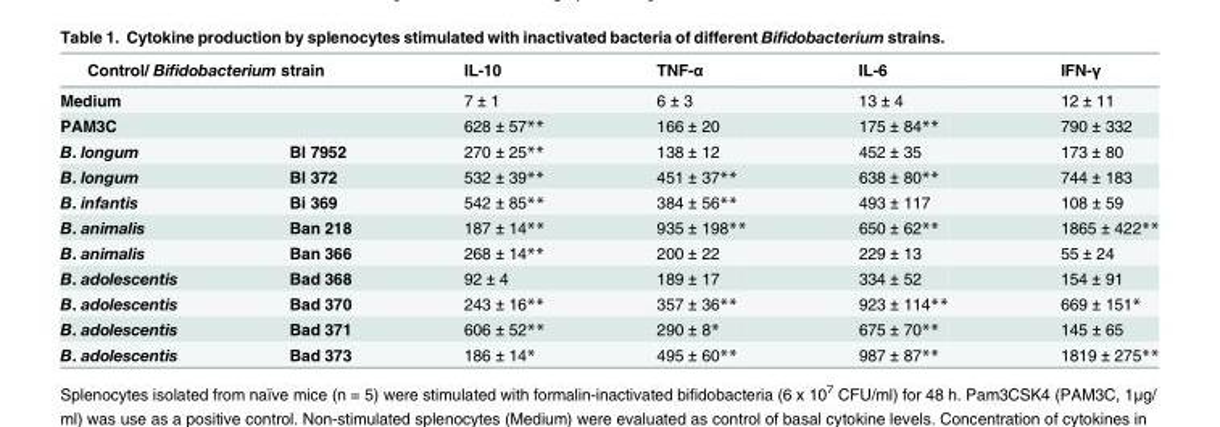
<table><thead><tr><td colspan="2">Control/ Bifidobacterium strain</td><td rowspan="2">IL-10 7 ± 1</td><td rowspan="2">TNF-α 6 ± 3</td><td rowspan="2">IL-6 13 ± 4</td><td rowspan="2">IFN-γ 12 ± 11</td></tr><tr><td>Medium</td><td></td></tr></thead><tbody><tr><td>PAM3C</td><td></td><td>628 ± 57**</td><td>166 ± 20</td><td>175 ± 84**</td><td>790 ± 332</td></tr><tr><td>B. longum</td><td>Bl 7952</td><td>270 ± 25**</td><td>138 ± 12</td><td>452 ± 35</td><td>173 ± 80</td></tr><tr><td>B. longum</td><td>Bl 372</td><td>532 ± 39**</td><td>451 ± 37**</td><td>638 ± 80**</td><td>744 ± 183</td></tr><tr><td>B. infantis</td><td>Bi 369</td><td>542 ± 85**</td><td>384 ± 56**</td><td>493 ± 117</td><td>108 ± 59</td></tr><tr><td>B. animalis</td><td>Ban 218</td><td>187 ± 14**</td><td>935 ± 198**</td><td>650 ± 62**</td><td>1865 ± 422**</td></tr><tr><td>B. animalis</td><td>Ban 366</td><td>268 ± 14**</td><td>200 ± 22</td><td>229 ± 13</td><td>55 ± 24</td></tr><tr><td>B. adolescentis</td><td>Bad 368</td><td>92 ± 4</td><td>189 ± 17</td><td>334 ± 52</td><td>154 ± 91</td></tr><tr><td>B. adolescentis</td><td>Bad 370</td><td>243 ± 16**</td><td>357 ± 36**</td><td>923 ± 114**</td><td>669 ± 151*</td></tr><tr><td>B. adolescentis</td><td>Bad 371</td><td>606 ± 52**</td><td>290 ± 8*</td><td>675 ± 70**</td><td>145 ± 65</td></tr><tr><td>B. adolescentis</td><td>Bad 373</td><td>186 ± 14*</td><td>495 ± 60**</td><td>987 ± 87**</td><td>1819 ± 275**</td></tr></tbody></table>